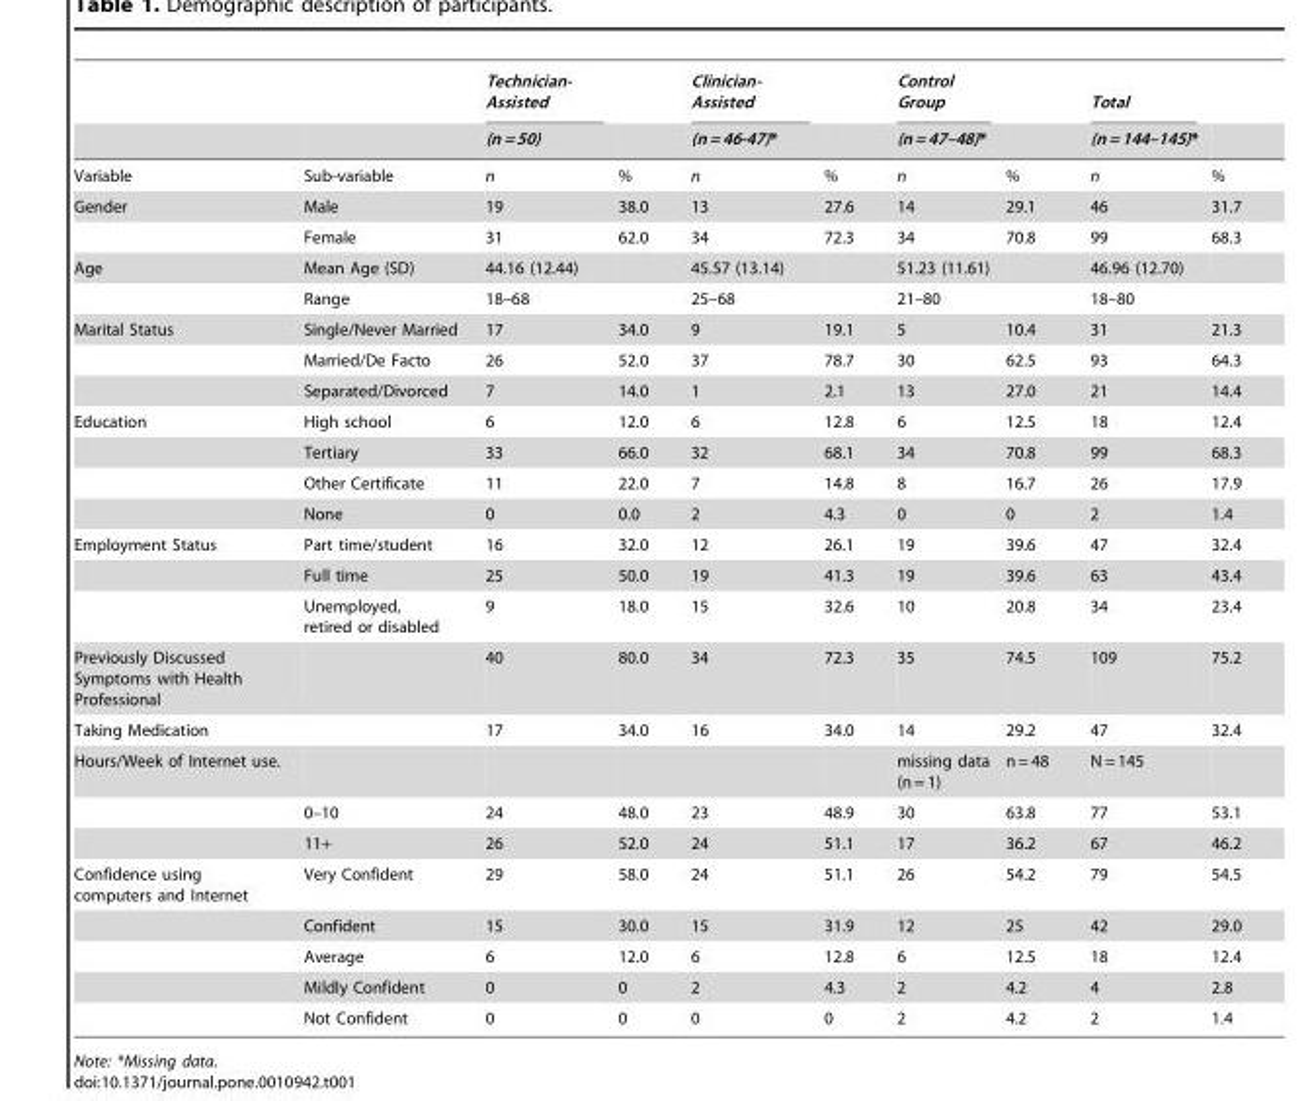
<table><thead><tr><td rowspan="2"></td><td rowspan="2"></td><td rowspan="2">Technician- Assisted (n = 50)</td><td rowspan="2"></td><td rowspan="2">Clinician- Assisted (n = 46-47)*</td><td rowspan="2"></td><td rowspan="2">Control Group (n = 47–48)*</td><td rowspan="2"></td><td rowspan="2">Total (n = 144–145)*</td><td rowspan="2"></td></tr><tr></tr></thead><tbody><tr><td>Variable</td><td>Sub-variable</td><td>n</td><td>%</td><td>n</td><td>%</td><td>n</td><td>%</td><td>n</td><td>%</td></tr><tr><td rowspan="2">Gender</td><td>Male</td><td>19</td><td>38.0</td><td>13</td><td>27.6</td><td>14</td><td>29.1</td><td>46</td><td>31.7</td></tr><tr><td>Female</td><td>31</td><td>62.0</td><td>34</td><td>72.3</td><td>34</td><td>70.8</td><td>99</td><td>68.3</td></tr><tr><td rowspan="2">Age</td><td>Mean Age (SD)</td><td>44.16 (12.44)</td><td></td><td>45.57 (13.14)</td><td></td><td>51.23 (11.61)</td><td></td><td>46.96 (12.70)</td><td></td></tr><tr><td>Range</td><td>18–68</td><td></td><td>25–68</td><td></td><td>21–80</td><td></td><td>18–80</td><td></td></tr><tr><td rowspan="3">Marital Status</td><td>Single/Never Married</td><td>17</td><td>34.0</td><td>9</td><td>19.1</td><td>5</td><td>10.4</td><td>31</td><td>21.3</td></tr><tr><td>Married/De Facto</td><td>26</td><td>52.0</td><td>37</td><td>78.7</td><td>30</td><td>62.5</td><td>93</td><td>64.3</td></tr><tr><td>Separated/Divorced</td><td>7</td><td>14.0</td><td>1</td><td>2.1</td><td>13</td><td>27.0</td><td>21</td><td>14.4</td></tr><tr><td rowspan="4">Education</td><td>High school</td><td>6</td><td>12.0</td><td>6</td><td>12.8</td><td>6</td><td>12.5</td><td>18</td><td>12.4</td></tr><tr><td>Tertiary</td><td>33</td><td>66.0</td><td>32</td><td>68.1</td><td>34</td><td>70.8</td><td>99</td><td>68.3</td></tr><tr><td>Other Certificate</td><td>11</td><td>22.0</td><td>7</td><td>14.8</td><td>8</td><td>16.7</td><td>26</td><td>17.9</td></tr><tr><td>None</td><td>0</td><td>0.0</td><td>2</td><td>4.3</td><td>0</td><td>0</td><td>2</td><td>1.4</td></tr><tr><td rowspan="3">Employment Status</td><td>Part time/student</td><td>16</td><td>32.0</td><td>12</td><td>26.1</td><td>19</td><td>39.6</td><td>47</td><td>32.4</td></tr><tr><td>Full time</td><td>25</td><td>50.0</td><td>19</td><td>41.3</td><td>19</td><td>39.6</td><td>63</td><td>43.4</td></tr><tr><td>Unemployed, retired or disabled</td><td>9</td><td>18.0</td><td>15</td><td>32.6</td><td>10</td><td>20.8</td><td>34</td><td>23.4</td></tr><tr><td>Previously Discussed Symptoms with Health Professional</td><td></td><td>40</td><td>80.0</td><td>34</td><td>72.3</td><td>35</td><td>74.5</td><td>109</td><td>75.2</td></tr><tr><td>Taking Medication</td><td></td><td>17</td><td>34.0</td><td>16</td><td>34.0</td><td>14</td><td>29.2</td><td>47</td><td>32.4</td></tr><tr><td rowspan="3">Hours/Week of Internet use.</td><td></td><td></td><td></td><td></td><td></td><td>missing data (n = 1)</td><td>n = 48</td><td>N = 145</td><td></td></tr><tr><td>0–10</td><td>24</td><td>48.0</td><td>23</td><td>48.9</td><td>30</td><td>63.8</td><td>77</td><td>53.1</td></tr><tr><td>11+</td><td>26</td><td>52.0</td><td>24</td><td>51.1</td><td>17</td><td>36.2</td><td>67</td><td>46.2</td></tr><tr><td rowspan="5">Confidence using computers and Internet</td><td>Very Confident</td><td>29</td><td>58.0</td><td>24</td><td>51.1</td><td>26</td><td>54.2</td><td>79</td><td>54.5</td></tr><tr><td>Confident</td><td>15</td><td>30.0</td><td>15</td><td>31.9</td><td>12</td><td>25</td><td>42</td><td>29.0</td></tr><tr><td>Average</td><td>6</td><td>12.0</td><td>6</td><td>12.8</td><td>6</td><td>12.5</td><td>18</td><td>12.4</td></tr><tr><td>Mildly Confident</td><td>0</td><td>0</td><td>2</td><td>4.3</td><td>2</td><td>4.2</td><td>4</td><td>2.8</td></tr><tr><td>Not Confident</td><td>0</td><td>0</td><td>0</td><td>0</td><td>2</td><td>4.2</td><td>2</td><td>1.4</td></tr></tbody></table>